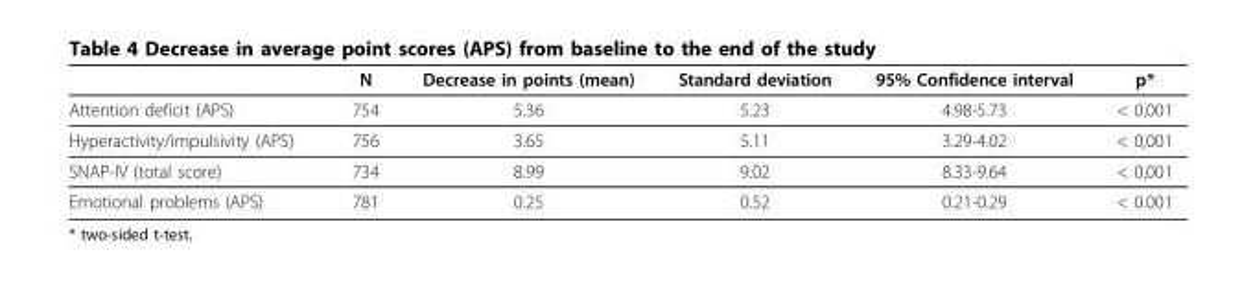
<table><thead><tr><td></td><td>N</td><td>Decrease in points (mean)</td><td>Standard deviation</td><td>95% Confidence interval</td><td>p*</td></tr></thead><tbody><tr><td>Attention deficit (APS)</td><td>754</td><td>5.36</td><td>5.23</td><td>4.98-5.73</td><td>&lt; 0,001</td></tr><tr><td>Hyperactivity/impulsivity (APS)</td><td>756</td><td>3.65</td><td>5.11</td><td>3.29-4.02</td><td>&lt; 0,001</td></tr><tr><td>SNAP-IV (total score)</td><td>734</td><td>8.99</td><td>9.02</td><td>8.33-9.64</td><td>&lt; 0,001</td></tr><tr><td>Emotional problems (APS)</td><td>781</td><td>0.25</td><td>0.52</td><td>0.21-0.29</td><td>&lt; 0.001</td></tr></tbody></table>